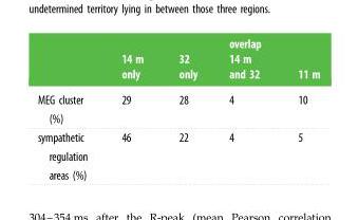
<table><thead><tr><td></td><td>14 m only</td><td>32 only</td><td>overlap 14 m and 32</td><td>11 m</td></tr></thead><tbody><tr><td>MEG cluster (%)</td><td>29</td><td>28</td><td>4</td><td>10</td></tr><tr><td>sympathetic regulation areas (%)</td><td>46</td><td>22</td><td>4</td><td>5</td></tr></tbody></table>